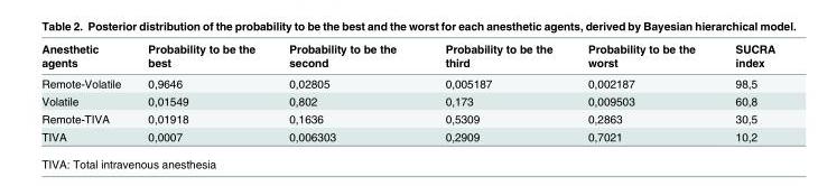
<table><thead><tr><td>Anesthetic agents</td><td>Probability to be the best</td><td>Probability to be the second</td><td>Probability to be the third</td><td>Probability to be the worst</td><td>SUCRA index</td></tr></thead><tbody><tr><td>Remote-Volatile</td><td>0,9646</td><td>0,02805</td><td>0,005187</td><td>0,002187</td><td>98,5</td></tr><tr><td>Volatile</td><td>0,01549</td><td>0,802</td><td>0,173</td><td>0,009503</td><td>60,8</td></tr><tr><td>Remote-TIVA</td><td>0,01918</td><td>0,1636</td><td>0,5309</td><td>0,2863</td><td>30,5</td></tr><tr><td>TIVA</td><td>0,0007</td><td>0,006303</td><td>0,2909</td><td>0,7021</td><td>10,2</td></tr></tbody></table>